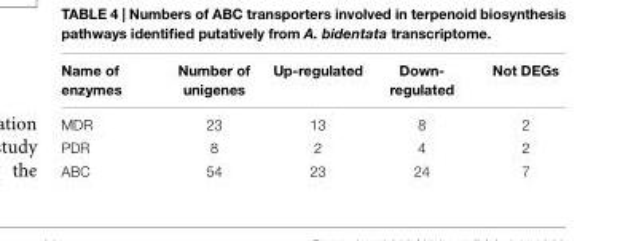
<table><thead><tr><td>Name of enzymes</td><td>Number of unigenes</td><td>Up-regulated</td><td>Down- regulated</td><td>Not DEGs</td></tr></thead><tbody><tr><td>MDR</td><td>23</td><td>13</td><td>8</td><td>2</td></tr><tr><td>PDR</td><td>8</td><td>2</td><td>4</td><td>2</td></tr><tr><td>ABC</td><td>54</td><td>23</td><td>24</td><td>7</td></tr></tbody></table>